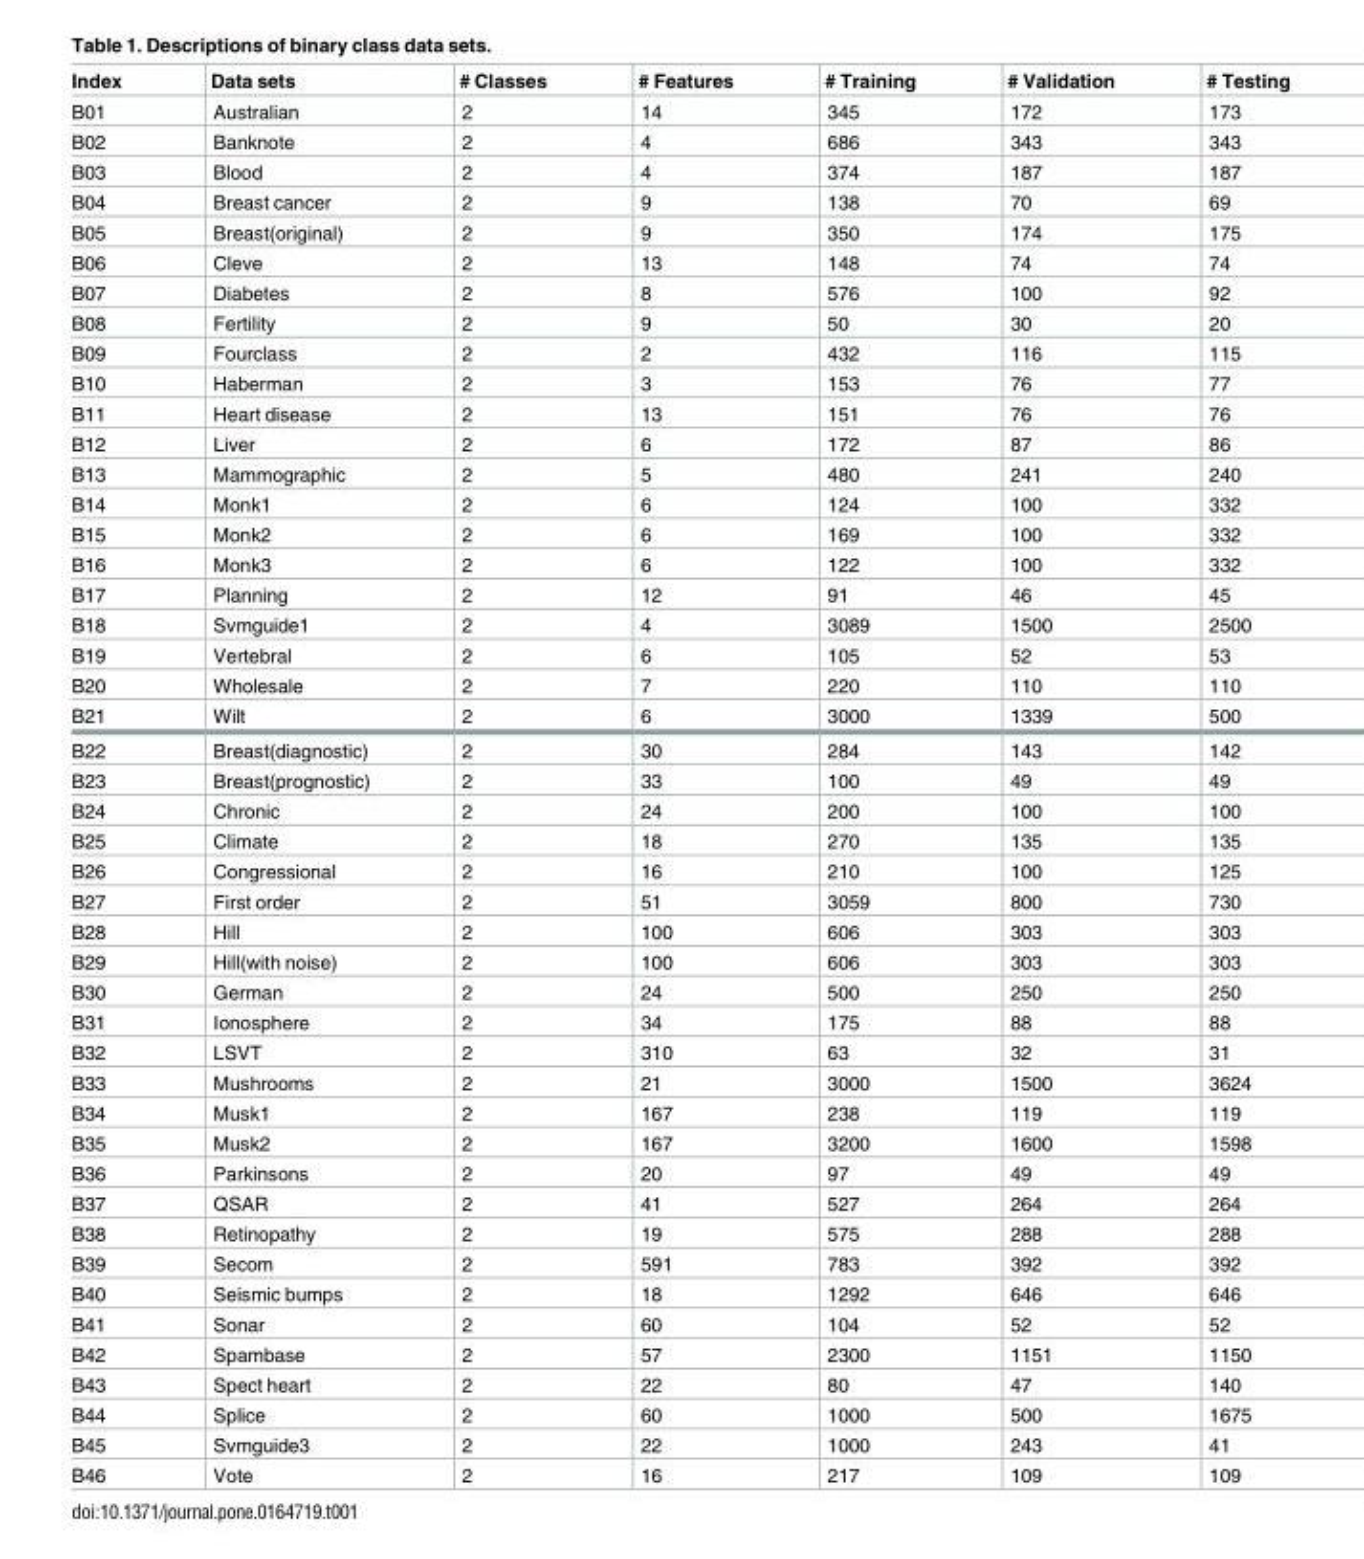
<table><thead><tr><td>Index</td><td>Data sets</td><td># Classes</td><td># Features</td><td># Training</td><td># Validation</td><td># Testing</td></tr></thead><tbody><tr><td>B01</td><td>Australian</td><td>2</td><td>14</td><td>345</td><td>172</td><td>173</td></tr><tr><td>B02</td><td>Banknote</td><td>2</td><td>4</td><td>686</td><td>343</td><td>343</td></tr><tr><td>B03</td><td>Blood</td><td>2</td><td>4</td><td>374</td><td>187</td><td>187</td></tr><tr><td>B04</td><td>Breast cancer</td><td>2</td><td>9</td><td>138</td><td>70</td><td>69</td></tr><tr><td>B05</td><td>Breast(original)</td><td>2</td><td>9</td><td>350</td><td>174</td><td>175</td></tr><tr><td>B06</td><td>Cleve</td><td>2</td><td>13</td><td>148</td><td>74</td><td>74</td></tr><tr><td>B07</td><td>Diabetes</td><td>2</td><td>8</td><td>576</td><td>100</td><td>92</td></tr><tr><td>B08</td><td>Fertility</td><td>2</td><td>9</td><td>50</td><td>30</td><td>20</td></tr><tr><td>B09</td><td>Fourclass</td><td>2</td><td>2</td><td>432</td><td>116</td><td>115</td></tr><tr><td>B10</td><td>Haberman</td><td>2</td><td>3</td><td>153</td><td>76</td><td>77</td></tr><tr><td>B11</td><td>Heart disease</td><td>2</td><td>13</td><td>151</td><td>76</td><td>76</td></tr><tr><td>B12</td><td>Liver</td><td>2</td><td>6</td><td>172</td><td>87</td><td>86</td></tr><tr><td>B13</td><td>Mammographic</td><td>2</td><td>5</td><td>480</td><td>241</td><td>240</td></tr><tr><td>B14</td><td>Monk1</td><td>2</td><td>6</td><td>124</td><td>100</td><td>332</td></tr><tr><td>B15</td><td>Monk2</td><td>2</td><td>6</td><td>169</td><td>100</td><td>332</td></tr><tr><td>B16</td><td>Monk3</td><td>2</td><td>6</td><td>122</td><td>100</td><td>332</td></tr><tr><td>B17</td><td>Planning</td><td>2</td><td>12</td><td>91</td><td>46</td><td>45</td></tr><tr><td>B18</td><td>Svmguide1</td><td>2</td><td>4</td><td>3089</td><td>1500</td><td>2500</td></tr><tr><td>B19</td><td>Vertebral</td><td>2</td><td>6</td><td>105</td><td>52</td><td>53</td></tr><tr><td>B20</td><td>Wholesale</td><td>2</td><td>7</td><td>220</td><td>110</td><td>110</td></tr><tr><td>B21</td><td>Wilt</td><td>2</td><td>6</td><td>3000</td><td>1339</td><td>500</td></tr><tr><td>B22</td><td>Breast(diagnostic)</td><td>2</td><td>30</td><td>284</td><td>143</td><td>142</td></tr><tr><td>B23</td><td>Breast(prognostic)</td><td>2</td><td>33</td><td>100</td><td>49</td><td>49</td></tr><tr><td>B24</td><td>Chronic</td><td>2</td><td>24</td><td>200</td><td>100</td><td>100</td></tr><tr><td>B25</td><td>Climate</td><td>2</td><td>18</td><td>270</td><td>135</td><td>135</td></tr><tr><td>B26</td><td>Congressional</td><td>2</td><td>16</td><td>210</td><td>100</td><td>125</td></tr><tr><td>B27</td><td>First order</td><td>2</td><td>51</td><td>3059</td><td>800</td><td>730</td></tr><tr><td>B28</td><td>Hill</td><td>2</td><td>100</td><td>606</td><td>303</td><td>303</td></tr><tr><td>B29</td><td>Hill(with noise)</td><td>2</td><td>100</td><td>606</td><td>303</td><td>303</td></tr><tr><td>B30</td><td>German</td><td>2</td><td>24</td><td>500</td><td>250</td><td>250</td></tr><tr><td>B31</td><td>Ionosphere</td><td>2</td><td>34</td><td>175</td><td>88</td><td>88</td></tr><tr><td>B32</td><td>LSVT</td><td>2</td><td>310</td><td>63</td><td>32</td><td>31</td></tr><tr><td>B33</td><td>Mushrooms</td><td>2</td><td>21</td><td>3000</td><td>1500</td><td>3624</td></tr><tr><td>B34</td><td>Musk1</td><td>2</td><td>167</td><td>238</td><td>119</td><td>119</td></tr><tr><td>B35</td><td>Musk2</td><td>2</td><td>167</td><td>3200</td><td>1600</td><td>1598</td></tr><tr><td>B36</td><td>Parkinsons</td><td>2</td><td>20</td><td>97</td><td>49</td><td>49</td></tr><tr><td>B37</td><td>QSAR</td><td>2</td><td>41</td><td>527</td><td>264</td><td>264</td></tr><tr><td>B38</td><td>Retinopathy</td><td>2</td><td>19</td><td>575</td><td>288</td><td>288</td></tr><tr><td>B39</td><td>Secom</td><td>2</td><td>591</td><td>783</td><td>392</td><td>392</td></tr><tr><td>B40</td><td>Seismic bumps</td><td>2</td><td>18</td><td>1292</td><td>646</td><td>646</td></tr><tr><td>B41</td><td>Sonar</td><td>2</td><td>60</td><td>104</td><td>52</td><td>52</td></tr><tr><td>B42</td><td>Spambase</td><td>2</td><td>57</td><td>2300</td><td>1151</td><td>1150</td></tr><tr><td>B43</td><td>Spect heart</td><td>2</td><td>22</td><td>80</td><td>47</td><td>140</td></tr><tr><td>B44</td><td>Splice</td><td>2</td><td>60</td><td>1000</td><td>500</td><td>1675</td></tr><tr><td>B45</td><td>Svmguide3</td><td>2</td><td>22</td><td>1000</td><td>243</td><td>41</td></tr><tr><td>B46</td><td>Vote</td><td>2</td><td>16</td><td>217</td><td>109</td><td>109</td></tr></tbody></table>